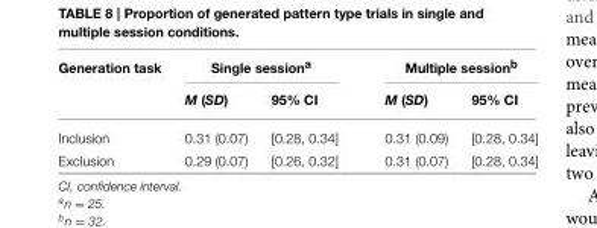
<table><thead><tr><td rowspan="2">Generation task</td><td colspan="2">Single session<sup>a</sup></td><td colspan="2">Multiple session<sup>b</sup></td></tr><tr><td>M (SD)</td><td>95% CI</td><td>M (SD)</td><td>95% CI</td></tr></thead><tbody><tr><td>Inclusion</td><td>0.31 (0.07)</td><td>[0.28, 0.34]</td><td>0.31 (0.09)</td><td>[0.28, 0.34]</td></tr><tr><td>Exclusion</td><td>0.29 (0.07)</td><td>[0.26, 0.32]</td><td>0.31 (0.07)</td><td>[0.28, 0.34]</td></tr></tbody></table>